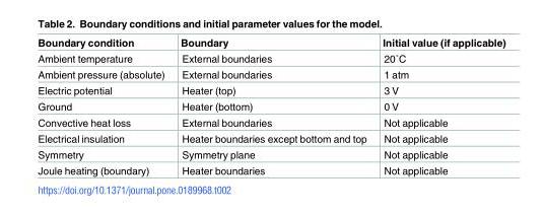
<table><thead><tr><td>Boundary condition</td><td>Boundary</td><td>Initial value (if applicable)</td></tr></thead><tbody><tr><td>Ambient temperature</td><td>External boundaries</td><td>20˚C</td></tr><tr><td>Ambient pressure (absolute)</td><td>External boundaries</td><td>1 atm</td></tr><tr><td>Electric potential</td><td>Heater (top)</td><td>3 V</td></tr><tr><td>Ground</td><td>Heater (bottom)</td><td>0 V</td></tr><tr><td>Convective heat loss</td><td>External boundaries</td><td>Not applicable</td></tr><tr><td>Electrical insulation</td><td>Heater boundaries except bottom and top</td><td>Not applicable</td></tr><tr><td>Symmetry</td><td>Symmetry plane</td><td>Not applicable</td></tr><tr><td>Joule heating (boundary)</td><td>Heater boundaries</td><td>Not applicable</td></tr></tbody></table>